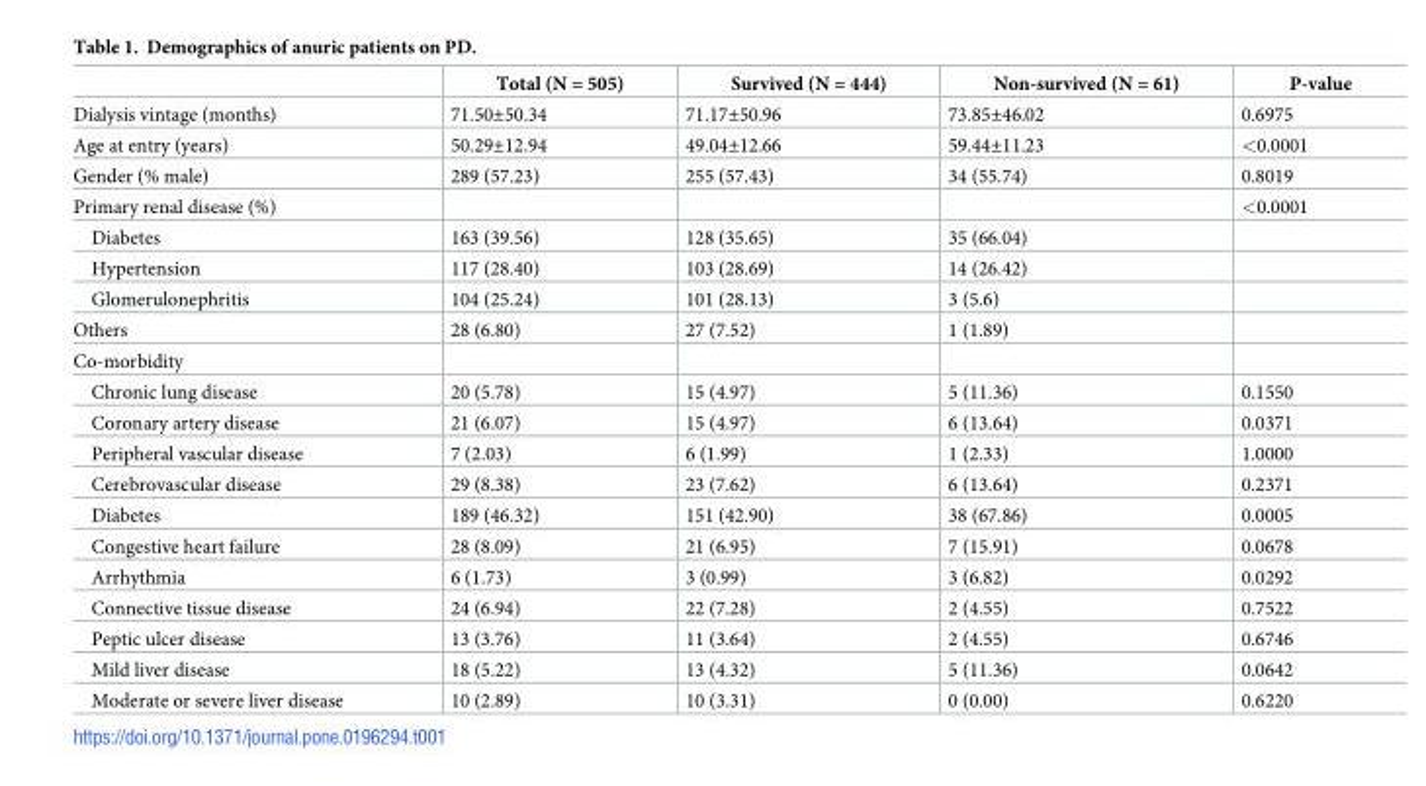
<table><thead><tr><td></td><td>Total (N = 505)</td><td>Survived (N = 444)</td><td>Non-survived (N = 61)</td><td>P-value</td></tr></thead><tbody><tr><td>Dialysis vintage (months)</td><td>71.50±50.34</td><td>71.17±50.96</td><td>73.85±46.02</td><td>0.6975</td></tr><tr><td>Age at entry (years)</td><td>50.29±12.94</td><td>49.04±12.66</td><td>59.44±11.23</td><td>&lt;0.0001</td></tr><tr><td>Gender (% male)</td><td>289 (57.23)</td><td>255 (57.43)</td><td>34 (55.74)</td><td>0.8019</td></tr><tr><td>Primary renal disease (%)</td><td></td><td></td><td></td><td>&lt;0.0001</td></tr><tr><td>Diabetes</td><td>163 (39.56)</td><td>128 (35.65)</td><td>35 (66.04)</td><td></td></tr><tr><td>Hypertension</td><td>117 (28.40)</td><td>103 (28.69)</td><td>14 (26.42)</td><td></td></tr><tr><td>Glomerulonephritis</td><td>104 (25.24)</td><td>101 (28.13)</td><td>3 (5.6)</td><td></td></tr><tr><td>Others</td><td>28 (6.80)</td><td>27 (7.52)</td><td>1 (1.89)</td><td></td></tr><tr><td colspan="5">Co-morbidity</td></tr><tr><td>Chronic lung disease</td><td>20 (5.78)</td><td>15 (4.97)</td><td>5 (11.36)</td><td>0.1550</td></tr><tr><td>Coronary artery disease</td><td>21 (6.07)</td><td>15 (4.97)</td><td>6 (13.64)</td><td>0.0371</td></tr><tr><td>Peripheral vascular disease</td><td>7 (2.03)</td><td>6 (1.99)</td><td>1 (2.33)</td><td>1.0000</td></tr><tr><td>Cerebrovascular disease</td><td>29 (8.38)</td><td>23 (7.62)</td><td>6 (13.64)</td><td>0.2371</td></tr><tr><td>Diabetes</td><td>189 (46.32)</td><td>151 (42.90)</td><td>38 (67.86)</td><td>0.0005</td></tr><tr><td>Congestive heart failure</td><td>28 (8.09)</td><td>21 (6.95)</td><td>7 (15.91)</td><td>0.0678</td></tr><tr><td>Arrhythmia</td><td>6 (1.73)</td><td>3 (0.99)</td><td>3 (6.82)</td><td>0.0292</td></tr><tr><td>Connective tissue disease</td><td>24 (6.94)</td><td>22 (7.28)</td><td>2 (4.55)</td><td>0.7522</td></tr><tr><td>Peptic ulcer disease</td><td>13 (3.76)</td><td>11 (3.64)</td><td>2 (4.55)</td><td>0.6746</td></tr><tr><td>Mild liver disease</td><td>18 (5.22)</td><td>13 (4.32)</td><td>5 (11.36)</td><td>0.0642</td></tr><tr><td>Moderate or severe liver disease</td><td>10 (2.89)</td><td>10 (3.31)</td><td>0 (0.00)</td><td>0.6220</td></tr></tbody></table>